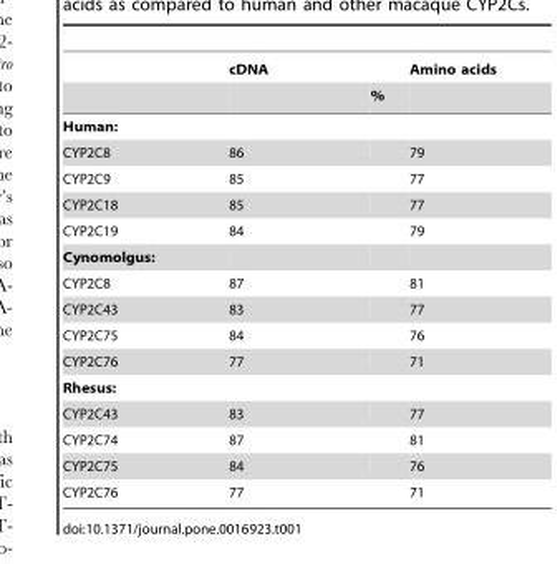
<table><thead><tr><td rowspan="2"></td><td rowspan="2">cDNA</td><td rowspan="2">%</td><td rowspan="2">Amino acids</td></tr><tr></tr></thead><tbody><tr><td colspan="4">Human:</td></tr><tr><td>CYP2C8</td><td>86</td><td></td><td>79</td></tr><tr><td>CYP2C9</td><td>85</td><td></td><td>77</td></tr><tr><td>CYP2C18</td><td>85</td><td></td><td>77</td></tr><tr><td>CYP2C19</td><td>84</td><td></td><td>79</td></tr><tr><td colspan="4">Cynomolgus:</td></tr><tr><td>CYP2C8</td><td>87</td><td></td><td>81</td></tr><tr><td>CYP2C43</td><td>83</td><td></td><td>77</td></tr><tr><td>CYP2C75</td><td>84</td><td></td><td>76</td></tr><tr><td>CYP2C76</td><td>77</td><td></td><td>71</td></tr><tr><td colspan="4">Rhesus:</td></tr><tr><td>CYP2C43</td><td>83</td><td></td><td>77</td></tr><tr><td>CYP2C74</td><td>87</td><td></td><td>81</td></tr><tr><td>CYP2C75</td><td>84</td><td></td><td>76</td></tr><tr><td>CYP2C76</td><td>77</td><td></td><td>71</td></tr></tbody></table>